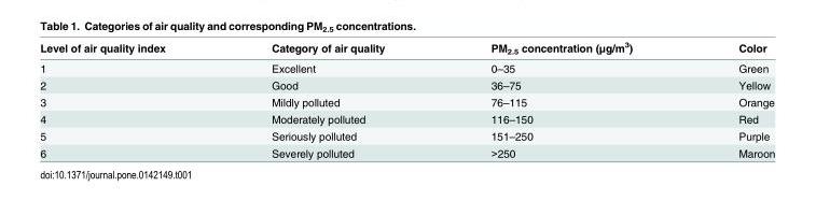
<table><thead><tr><td>Level of air quality index</td><td>Category of air quality</td><td>PM<sub>2.5</sub> concentration (μg/m<sup>3</sup>)</td><td>Color</td></tr></thead><tbody><tr><td>1</td><td>Excellent</td><td>0–35</td><td>Green</td></tr><tr><td>2</td><td>Good</td><td>36–75</td><td>Yellow</td></tr><tr><td>3</td><td>Mildly polluted</td><td>76–115</td><td>Orange</td></tr><tr><td>4</td><td>Moderately polluted</td><td>116–150</td><td>Red</td></tr><tr><td>5</td><td>Seriously polluted</td><td>151–250</td><td>Purple</td></tr><tr><td>6</td><td>Severely polluted</td><td>&gt;250</td><td>Maroon</td></tr></tbody></table>